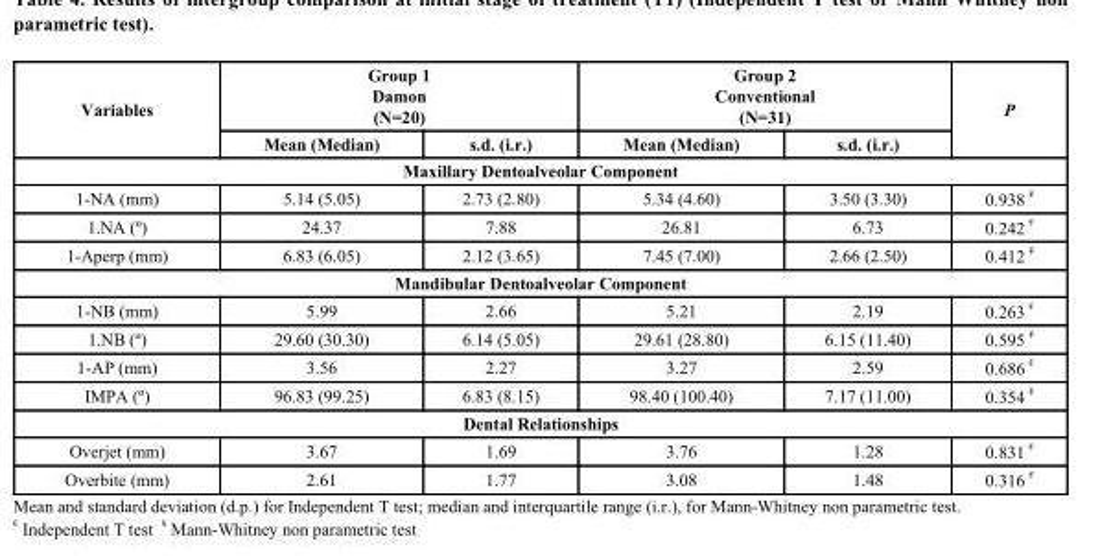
<table><thead><tr><td rowspan="2">Variables</td><td colspan="2">Group 1 Damon (N=20)</td><td colspan="2">Group 2 Conventional (N=31)</td><td rowspan="2">P</td></tr><tr><td>Mean (Median)</td><td>s.d. (i.r.)</td><td>Mean (Median)</td><td>s.d. (i.r.)</td></tr></thead><tbody><tr><td colspan="6">Maxillary Dentoalveolar Component</td></tr><tr><td>1-NA (mm)</td><td>5.14 (5.05)</td><td>2.73 (2.80)</td><td>5.34 (4.60)</td><td>3.50 (3.30)</td><td>0.938 <sup>¥</sup></td></tr><tr><td>1.NA (º)</td><td>24.37</td><td>7.88</td><td>26.81</td><td>6.73</td><td>0.242 <sup>€</sup></td></tr><tr><td>1-Aperp (mm)</td><td>6.83 (6.05)</td><td>2.12 (3.65)</td><td>7.45 (7.00)</td><td>2.66 (2.50)</td><td>0.412 <sup>¥</sup></td></tr><tr><td colspan="6">Mandibular Dentoalveolar Component</td></tr><tr><td>1-NB (mm)</td><td>5.99</td><td>2.66</td><td>5.21</td><td>2.19</td><td>0.263 <sup>€</sup></td></tr><tr><td>1.NB (º)</td><td>29.60 (30.30)</td><td>6.14 (5.05)</td><td>29.61 (28.80)</td><td>6.15 (11.40)</td><td>0.595 <sup>¥</sup></td></tr><tr><td>1-AP (mm)</td><td>3.56</td><td>2.27</td><td>3.27</td><td>2.59</td><td>0.686 <sup>€</sup></td></tr><tr><td>IMPA (º)</td><td>96.83 (99.25)</td><td>6.83 (8.15)</td><td>98.40 (100.40)</td><td>7.17 (11.00)</td><td>0.354 <sup>¥</sup></td></tr><tr><td colspan="6">Dental Relationships</td></tr><tr><td>Overjet (mm)</td><td>3.67</td><td>1.69</td><td>3.76</td><td>1.28</td><td>0.831 <sup>€</sup></td></tr><tr><td>Overbite (mm)</td><td>2.61</td><td>1.77</td><td>3.08</td><td>1.48</td><td>0.316 <sup>€</sup></td></tr></tbody></table>